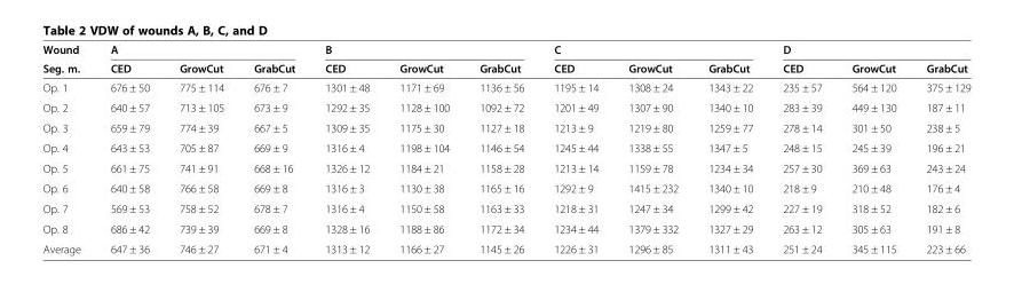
<table><thead><tr><td rowspan="2">Wound Seg. m.</td><td colspan="3">A</td><td colspan="3">B</td><td colspan="3">C</td><td colspan="3">D</td></tr><tr><td>CED</td><td>GrowCut</td><td>GrabCut</td><td>CED</td><td>GrowCut</td><td>GrabCut</td><td>CED</td><td>GrowCut</td><td>GrabCut</td><td>CED</td><td>GrowCut</td><td>GrabCut</td></tr></thead><tbody><tr><td>Op. 1</td><td>676 ± 50</td><td>775 ± 114</td><td>676 ± 7</td><td>1301 ± 48</td><td>1171 ± 69</td><td>1136 ± 56</td><td>1195 ± 14</td><td>1308 ± 24</td><td>1343 ± 22</td><td>235 ± 57</td><td>564 ± 120</td><td>375 ± 129</td></tr><tr><td>Op. 2</td><td>640 ± 57</td><td>713 ± 105</td><td>673 ± 9</td><td>1292 ± 35</td><td>1128 ± 100</td><td>1092 ± 72</td><td>1201 ± 49</td><td>1307 ± 90</td><td>1340 ± 10</td><td>283 ± 39</td><td>449 ± 130</td><td>187 ± 11</td></tr><tr><td>Op. 3</td><td>659 ± 79</td><td>774 ± 39</td><td>667 ± 5</td><td>1309 ± 35</td><td>1175 ± 30</td><td>1127 ± 18</td><td>1213 ± 9</td><td>1219 ± 80</td><td>1259 ± 77</td><td>278 ± 14</td><td>301 ± 50</td><td>238 ± 5</td></tr><tr><td>Op. 4</td><td>643 ± 53</td><td>705 ± 87</td><td>669 ± 9</td><td>1316 ± 4</td><td>1198 ± 104</td><td>1146 ± 54</td><td>1245 ± 44</td><td>1338 ± 55</td><td>1347 ± 5</td><td>248 ± 15</td><td>245 ± 39</td><td>196 ± 21</td></tr><tr><td>Op. 5</td><td>661 ± 75</td><td>741 ± 91</td><td>668 ± 16</td><td>1326 ± 12</td><td>1184 ± 21</td><td>1158 ± 28</td><td>1213 ± 14</td><td>1159 ± 78</td><td>1234 ± 34</td><td>257 ± 30</td><td>369 ± 63</td><td>243 ± 24</td></tr><tr><td>Op. 6</td><td>640 ± 58</td><td>766 ± 58</td><td>669 ± 8</td><td>1316 ± 3</td><td>1130 ± 38</td><td>1165 ± 16</td><td>1292 ± 9</td><td>1415 ± 232</td><td>1340 ± 10</td><td>218 ± 9</td><td>210 ± 48</td><td>176 ± 4</td></tr><tr><td>Op. 7</td><td>569 ± 53</td><td>758 ± 52</td><td>678 ± 7</td><td>1316 ± 4</td><td>1150 ± 58</td><td>1163 ± 33</td><td>1218 ± 31</td><td>1247 ± 34</td><td>1299 ± 42</td><td>227 ± 19</td><td>318 ± 52</td><td>182 ± 6</td></tr><tr><td>Op. 8</td><td>686 ± 42</td><td>739 ± 39</td><td>669 ± 8</td><td>1328 ± 16</td><td>1188 ± 86</td><td>1172 ± 34</td><td>1234 ± 44</td><td>1379 ± 332</td><td>1327 ± 29</td><td>263 ± 12</td><td>305 ± 63</td><td>191 ± 8</td></tr><tr><td>Average</td><td>647 ± 36</td><td>746 ± 27</td><td>671 ± 4</td><td>1313 ± 12</td><td>1166 ± 27</td><td>1145 ± 26</td><td>1226 ± 31</td><td>1296 ± 85</td><td>1311 ± 43</td><td>251 ± 24</td><td>345 ± 115</td><td>223 ± 66</td></tr></tbody></table>